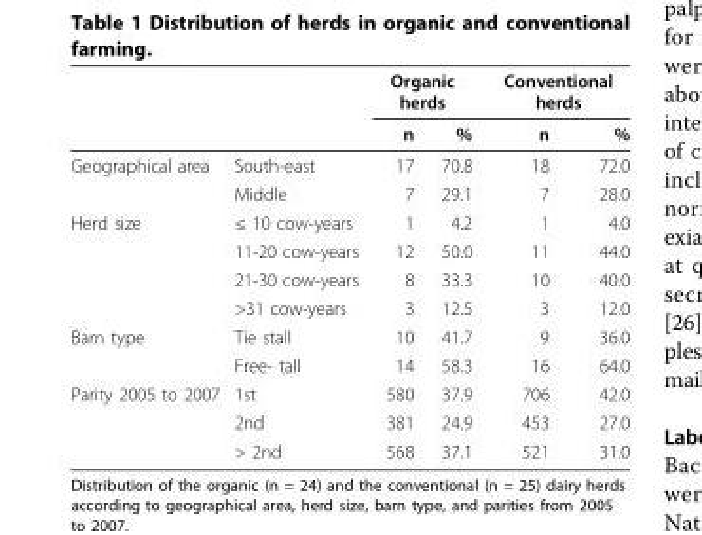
<table><thead><tr><td rowspan="2"></td><td rowspan="2"></td><td colspan="2">Organic herds</td><td colspan="2">Conventional herds</td></tr><tr><td>n</td><td>%</td><td>n</td><td>%</td></tr></thead><tbody><tr><td rowspan="2">Geographical area</td><td>South-east</td><td>17</td><td>70.8</td><td>18</td><td>72.0</td></tr><tr><td>Middle</td><td>7</td><td>29.1</td><td>7</td><td>28.0</td></tr><tr><td rowspan="4">Herd size</td><td>≤ 10 cow-years</td><td>1</td><td>4.2</td><td>1</td><td>4.0</td></tr><tr><td>11-20 cow-years</td><td>12</td><td>50.0</td><td>11</td><td>44.0</td></tr><tr><td>21-30 cow-years</td><td>8</td><td>33.3</td><td>10</td><td>40.0</td></tr><tr><td>&gt;31 cow-years</td><td>3</td><td>12.5</td><td>3</td><td>12.0</td></tr><tr><td rowspan="2">Barn type</td><td>Tie stall</td><td>10</td><td>41.7</td><td>9</td><td>36.0</td></tr><tr><td>Free- tall</td><td>14</td><td>58.3</td><td>16</td><td>64.0</td></tr><tr><td rowspan="3">Parity 2005 to 2007</td><td>1st</td><td>580</td><td>37.9</td><td>706</td><td>42.0</td></tr><tr><td>2nd</td><td>381</td><td>24.9</td><td>453</td><td>27.0</td></tr><tr><td>&gt; 2nd</td><td>568</td><td>37.1</td><td>521</td><td>31.0</td></tr></tbody></table>